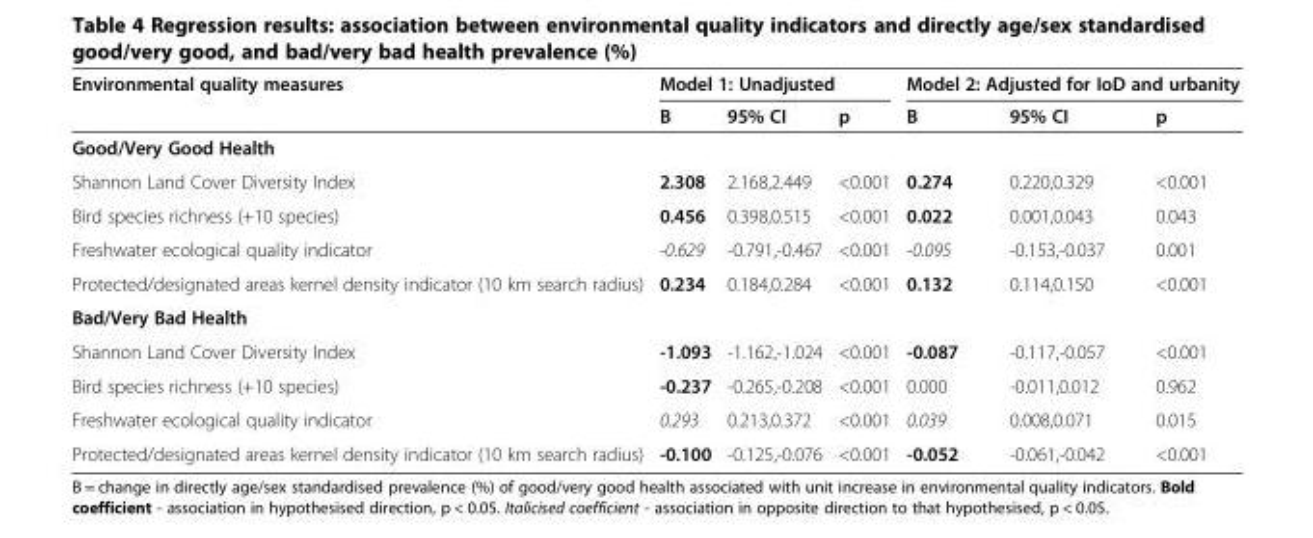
<table><thead><tr><td rowspan="2">Environmental quality measures</td><td colspan="3">Model 1: Unadjusted</td><td colspan="3">Model 2: Adjusted for IoD and urbanity</td></tr><tr><td>B</td><td>95% CI</td><td>p</td><td>B</td><td>95% CI</td><td>p</td></tr></thead><tbody><tr><td colspan="7">Good/Very Good Health</td></tr><tr><td>Shannon Land Cover Diversity Index</td><td>2.308</td><td>2.168,2.449</td><td>&lt;0.001</td><td>0.274</td><td>0.220,0.329</td><td>&lt;0.001</td></tr><tr><td>Bird species richness (+10 species)</td><td>0.456</td><td>0.398,0.515</td><td>&lt;0.001</td><td>0.022</td><td>0.001,0.043</td><td>0.043</td></tr><tr><td>Freshwater ecological quality indicator</td><td>-0.629</td><td>-0.791,-0.467</td><td>&lt;0.001</td><td>-0.095</td><td>-0.153,-0.037</td><td>0.001</td></tr><tr><td>Protected/designated areas kernel density indicator (10 km search radius)</td><td>0.234</td><td>0.184,0.284</td><td>&lt;0.001</td><td>0.132</td><td>0.114,0.150</td><td>&lt;0.001</td></tr><tr><td colspan="7">Bad/Very Bad Health</td></tr><tr><td>Shannon Land Cover Diversity Index</td><td>-1.093</td><td>-1.162,-1.024</td><td>&lt;0.001</td><td>-0.087</td><td>-0.117,-0.057</td><td>&lt;0.001</td></tr><tr><td>Bird species richness (+10 species)</td><td>-0.237</td><td>-0.265,-0.208</td><td>&lt;0.001</td><td>0.000</td><td>-0.011,0.012</td><td>0.962</td></tr><tr><td>Freshwater ecological quality indicator</td><td>0.293</td><td>0.213,0.372</td><td>&lt;0.001</td><td>0.039</td><td>0.008,0.071</td><td>0.015</td></tr><tr><td>Protected/designated areas kernel density indicator (10 km search radius)</td><td>-0.100</td><td>-0.125,-0.076</td><td>&lt;0.001</td><td>-0.052</td><td>-0.061,-0.042</td><td>&lt;0.001</td></tr></tbody></table>